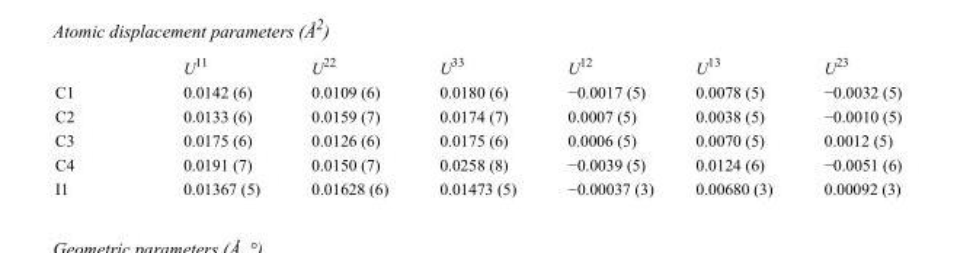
<table><thead><tr><td></td><td>U<sup>11</sup></td><td>U<sup>22</sup></td><td>U<sup>33</sup></td><td>U<sup>12</sup></td><td>U<sup>13</sup></td><td>U<sup>23</sup></td></tr></thead><tbody><tr><td>C1</td><td>0.0142 (6)</td><td>0.0109 (6)</td><td>0.0180 (6)</td><td>−0.0017 (5)</td><td>0.0078 (5)</td><td>−0.0032 (5)</td></tr><tr><td>C2</td><td>0.0133 (6)</td><td>0.0159 (7)</td><td>0.0174 (7)</td><td>0.0007 (5)</td><td>0.0038 (5)</td><td>−0.0010 (5)</td></tr><tr><td>C3</td><td>0.0175 (6)</td><td>0.0126 (6)</td><td>0.0175 (6)</td><td>0.0006 (5)</td><td>0.0070 (5)</td><td>0.0012 (5)</td></tr><tr><td>C4</td><td>0.0191 (7)</td><td>0.0150 (7)</td><td>0.0258 (8)</td><td>−0.0039 (5)</td><td>0.0124 (6)</td><td>−0.0051 (6)</td></tr><tr><td>I1</td><td>0.01367 (5)</td><td>0.01628 (6)</td><td>0.01473 (5)</td><td>−0.00037 (3)</td><td>0.00680 (3)</td><td>0.00092 (3)</td></tr></tbody></table>